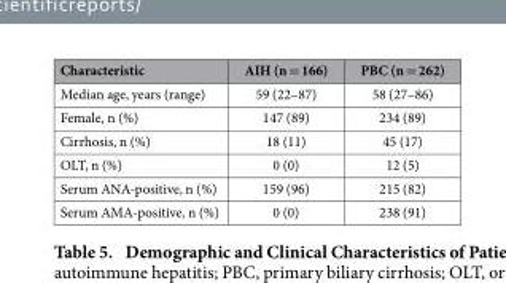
<table><thead><tr><td>Characteristic</td><td>AIH (n = 166)</td><td>PBC (n = 262)</td></tr></thead><tbody><tr><td>Median age, years (range)</td><td>59 (22–87)</td><td>58 (27–86)</td></tr><tr><td>Female, n (%)</td><td>147 (89)</td><td>234 (89)</td></tr><tr><td>Cirrhosis, n (%)</td><td>18 (11)</td><td>45 (17)</td></tr><tr><td>OLT, n (%)</td><td>0 (0)</td><td>12 (5)</td></tr><tr><td>Serum ANA-positive, n (%)</td><td>159 (96)</td><td>215 (82)</td></tr><tr><td>Serum AMA-positive, n (%)</td><td>0 (0)</td><td>238 (91)</td></tr></tbody></table>